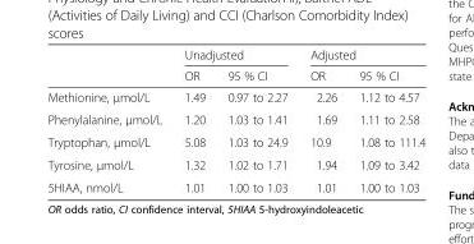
<table><thead><tr><td rowspan="2"></td><td colspan="2">Unadjusted</td><td colspan="2">Adjusted</td></tr><tr><td>OR</td><td>95 % CI</td><td>OR</td><td>95 % CI</td></tr></thead><tbody><tr><td>Methionine, μmol/L</td><td>1.49</td><td>0.97 to 2.27</td><td>2.26</td><td>1.12 to 4.57</td></tr><tr><td>Phenylalanine, μmol/L</td><td>1.20</td><td>1.03 to 1.41</td><td>1.69</td><td>1.11 to 2.58</td></tr><tr><td>Tryptophan, μmol/L</td><td>5.08</td><td>1.03 to 24.9</td><td>10.9</td><td>1.08 to 111.4</td></tr><tr><td>Tyrosine, μmol/L</td><td>1.32</td><td>1.02 to 1.71</td><td>1.94</td><td>1.09 to 3.42</td></tr><tr><td>5HIAA, nmol/L</td><td>1.01</td><td>1.00 to 1.03</td><td>1.01</td><td>1.00 to 1.03</td></tr></tbody></table>